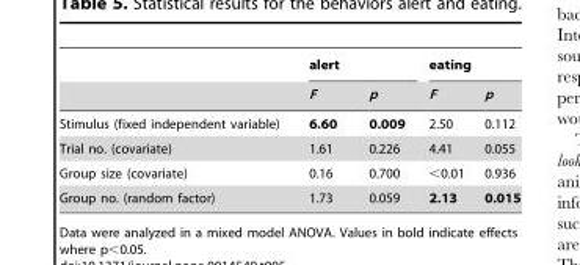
<table><thead><tr><td rowspan="2"></td><td colspan="2">alert</td><td colspan="2">eating</td></tr><tr><td>F</td><td>p</td><td>F</td><td>p</td></tr></thead><tbody><tr><td>Stimulus (fixed independent variable)</td><td>6.60</td><td>0.009</td><td>2.50</td><td>0.112</td></tr><tr><td>Trial no. (covariate)</td><td>1.61</td><td>0.226</td><td>4.41</td><td>0.055</td></tr><tr><td>Group size (covariate)</td><td>0.16</td><td>0.700</td><td>&lt;0.01</td><td>0.936</td></tr><tr><td>Group no. (random factor)</td><td>1.73</td><td>0.059</td><td>2.13</td><td>0.015</td></tr></tbody></table>